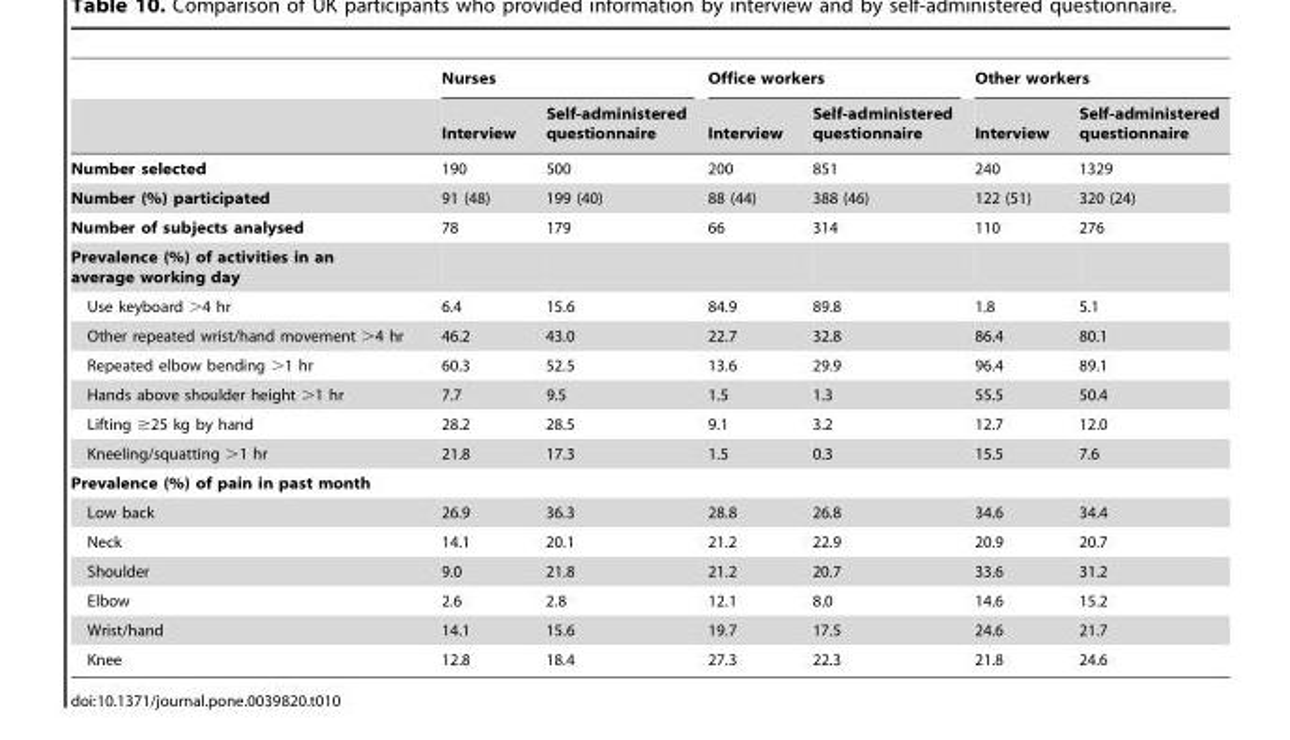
<table><thead><tr><td rowspan="2"></td><td colspan="2">Nurses</td><td colspan="2">Office workers</td><td colspan="2">Other workers</td></tr><tr><td>Interview</td><td>Self-administered questionnaire</td><td>Interview</td><td>Self-administered questionnaire</td><td>Interview</td><td>Self-administered questionnaire</td></tr></thead><tbody><tr><td>Number selected</td><td>190</td><td>500</td><td>200</td><td>851</td><td>240</td><td>1329</td></tr><tr><td>Number (%) participated</td><td>91 (48)</td><td>199 (40)</td><td>88 (44)</td><td>388 (46)</td><td>122 (51)</td><td>320 (24)</td></tr><tr><td>Number of subjects analysed</td><td>78</td><td>179</td><td>66</td><td>314</td><td>110</td><td>276</td></tr><tr><td colspan="7">Prevalence (%) of activities in an average working day</td></tr><tr><td>Use keyboard &gt;4 hr</td><td>6.4</td><td>15.6</td><td>84.9</td><td>89.8</td><td>1.8</td><td>5.1</td></tr><tr><td>Other repeated wrist/hand movement &gt;4 hr</td><td>46.2</td><td>43.0</td><td>22.7</td><td>32.8</td><td>86.4</td><td>80.1</td></tr><tr><td>Repeated elbow bending &gt;1 hr</td><td>60.3</td><td>52.5</td><td>13.6</td><td>29.9</td><td>96.4</td><td>89.1</td></tr><tr><td>Hands above shoulder height &gt;1 hr</td><td>7.7</td><td>9.5</td><td>1.5</td><td>1.3</td><td>55.5</td><td>50.4</td></tr><tr><td>Lifting ≥25 kg by hand</td><td>28.2</td><td>28.5</td><td>9.1</td><td>3.2</td><td>12.7</td><td>12.0</td></tr><tr><td>Kneeling/squatting &gt;1 hr</td><td>21.8</td><td>17.3</td><td>1.5</td><td>0.3</td><td>15.5</td><td>7.6</td></tr><tr><td colspan="7">Prevalence (%) of pain in past month</td></tr><tr><td>Low back</td><td>26.9</td><td>36.3</td><td>28.8</td><td>26.8</td><td>34.6</td><td>34.4</td></tr><tr><td>Neck</td><td>14.1</td><td>20.1</td><td>21.2</td><td>22.9</td><td>20.9</td><td>20.7</td></tr><tr><td>Shoulder</td><td>9.0</td><td>21.8</td><td>21.2</td><td>20.7</td><td>33.6</td><td>31.2</td></tr><tr><td>Elbow</td><td>2.6</td><td>2.8</td><td>12.1</td><td>8.0</td><td>14.6</td><td>15.2</td></tr><tr><td>Wrist/hand</td><td>14.1</td><td>15.6</td><td>19.7</td><td>17.5</td><td>24.6</td><td>21.7</td></tr><tr><td>Knee</td><td>12.8</td><td>18.4</td><td>27.3</td><td>22.3</td><td>21.8</td><td>24.6</td></tr></tbody></table>